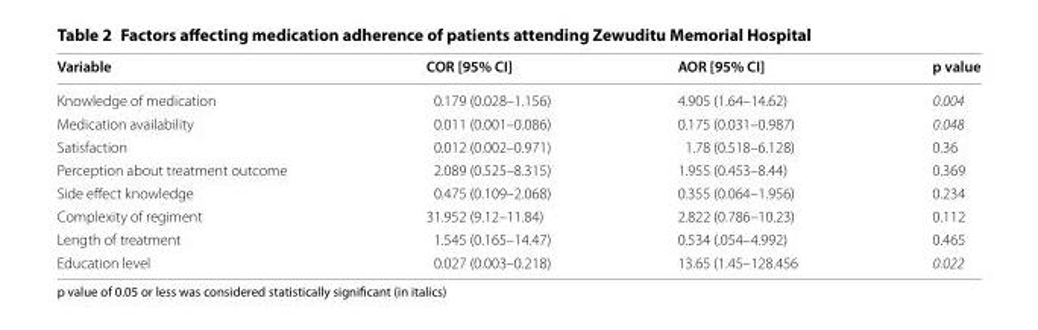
<table><thead><tr><td>Variable</td><td>COR [95% CI]</td><td>AOR [95% CI]</td><td>p value</td></tr></thead><tbody><tr><td>Knowledge of medication</td><td>0.179 (0.028–1.156)</td><td>4.905 (1.64–14.62)</td><td>0.004</td></tr><tr><td>Medication availability</td><td>0.011 (0.001–0.086)</td><td>0.175 (0.031–0.987)</td><td>0.048</td></tr><tr><td>Satisfaction</td><td>0.012 (0.002–0.971)</td><td>1.78 (0.518–6.128)</td><td>0.36</td></tr><tr><td>Perception about treatment outcome</td><td>2.089 (0.525–8.315)</td><td>1.955 (0.453–8.44)</td><td>0.369</td></tr><tr><td>Side effect knowledge</td><td>0.475 (0.109–2.068)</td><td>0.355 (0.064–1.956)</td><td>0.234</td></tr><tr><td>Complexity of regiment</td><td>31.952 (9.12–11.84)</td><td>2.822 (0.786–10.23)</td><td>0.112</td></tr><tr><td>Length of treatment</td><td>1.545 (0.165–14.47)</td><td>0.534 (.054–4.992)</td><td>0.465</td></tr><tr><td>Education level</td><td>0.027 (0.003–0.218)</td><td>13.65 (1.45–128.456</td><td>0.022</td></tr></tbody></table>